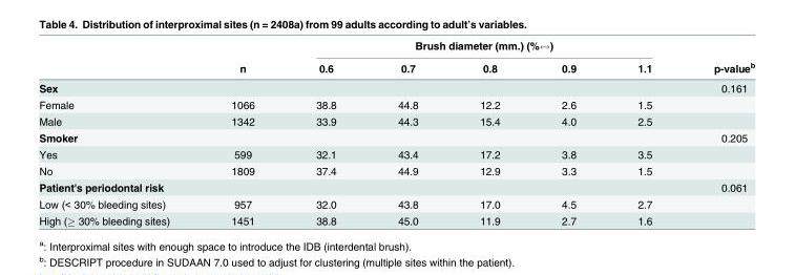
<table><thead><tr><td rowspan="2"></td><td rowspan="2">n</td><td colspan="5">Brush diameter (mm.) (%↔)</td><td rowspan="2">p-value<sup>b</sup></td></tr><tr><td>0.6</td><td>0.7</td><td>0.8</td><td>0.9</td><td>1.1</td></tr></thead><tbody><tr><td>Sex</td><td></td><td></td><td></td><td></td><td></td><td></td><td>0.161</td></tr><tr><td>Female</td><td>1066</td><td>38.8</td><td>44.8</td><td>12.2</td><td>2.6</td><td>1.5</td><td></td></tr><tr><td>Male</td><td>1342</td><td>33.9</td><td>44.3</td><td>15.4</td><td>4.0</td><td>2.5</td><td></td></tr><tr><td>Smoker</td><td></td><td></td><td></td><td></td><td></td><td></td><td>0.205</td></tr><tr><td>Yes</td><td>599</td><td>32.1</td><td>43.4</td><td>17.2</td><td>3.8</td><td>3.5</td><td></td></tr><tr><td>No</td><td>1809</td><td>37.4</td><td>44.9</td><td>12.9</td><td>3.3</td><td>1.5</td><td></td></tr><tr><td>Patient&#x27;s periodontal risk</td><td></td><td></td><td></td><td></td><td></td><td></td><td>0.061</td></tr><tr><td>Low (&lt; 30% bleeding sites)</td><td>957</td><td>32.0</td><td>43.8</td><td>17.0</td><td>4.5</td><td>2.7</td><td></td></tr><tr><td>High (≥ 30% bleeding sites)</td><td>1451</td><td>38.8</td><td>45.0</td><td>11.9</td><td>2.7</td><td>1.6</td><td></td></tr></tbody></table>